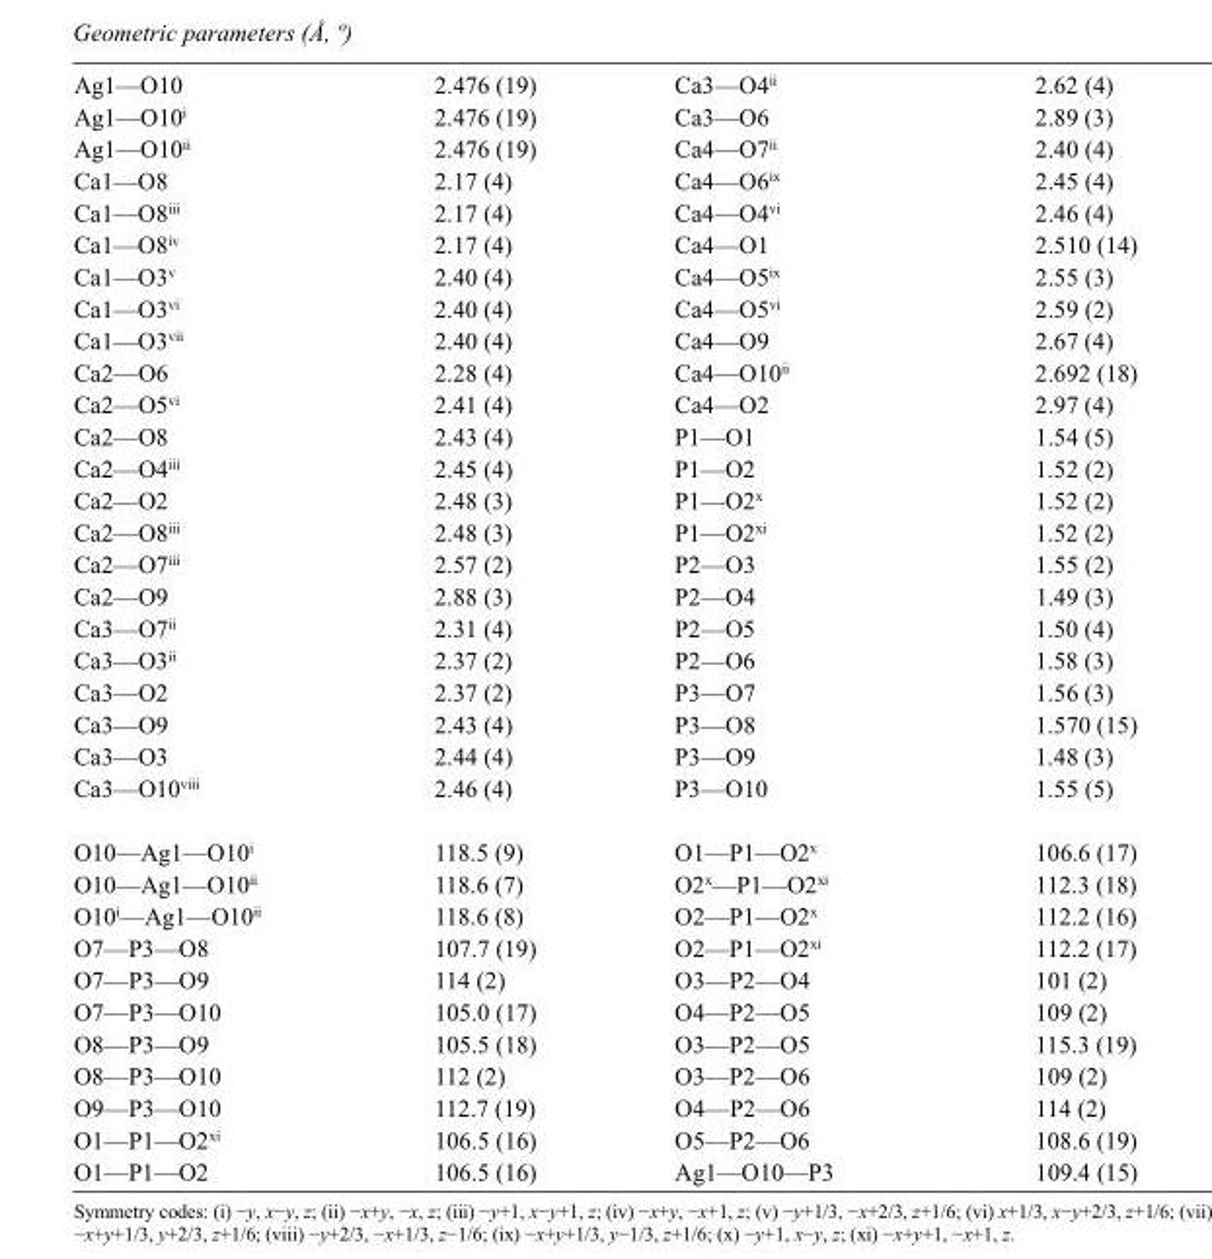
<table><tbody><tr><td>Ag1—O10</td><td>2.476 (19)</td><td>Ca3—O4<sup>ii</sup></td><td>2.62 (4)</td></tr><tr><td>Ag1—O10<sup>i</sup></td><td>2.476 (19)</td><td>Ca3—O6</td><td>2.89 (3)</td></tr><tr><td>Ag1—O10<sup>ii</sup></td><td>2.476 (19)</td><td>Ca4—O7<sup>ii</sup></td><td>2.40 (4)</td></tr><tr><td>Ca1—O8</td><td>2.17 (4)</td><td>Ca4—O6<sup>ix</sup></td><td>2.45 (4)</td></tr><tr><td>Ca1—O8<sup>iii</sup></td><td>2.17 (4)</td><td>Ca4—O4<sup>vi</sup></td><td>2.46 (4)</td></tr><tr><td>Ca1—O8<sup>iv</sup></td><td>2.17 (4)</td><td>Ca4—O1</td><td>2.510 (14)</td></tr><tr><td>Ca1—O3<sup>v</sup></td><td>2.40 (4)</td><td>Ca4—O5<sup>ix</sup></td><td>2.55 (3)</td></tr><tr><td>Ca1—O3<sup>vi</sup></td><td>2.40 (4)</td><td>Ca4—O5<sup>vi</sup></td><td>2.59 (2)</td></tr><tr><td>Ca1—O3<sup>vii</sup></td><td>2.40 (4)</td><td>Ca4—O9</td><td>2.67 (4)</td></tr><tr><td>Ca2—O6</td><td>2.28 (4)</td><td>Ca4—O10<sup>ii</sup></td><td>2.692 (18)</td></tr><tr><td>Ca2—O5<sup>vi</sup></td><td>2.41 (4)</td><td>Ca4—O2</td><td>2.97 (4)</td></tr><tr><td>Ca2—O8</td><td>2.43 (4)</td><td>P1—O1</td><td>1.54 (5)</td></tr><tr><td>Ca2—O4<sup>iii</sup></td><td>2.45 (4)</td><td>P1—O2</td><td>1.52 (2)</td></tr><tr><td>Ca2—O2</td><td>2.48 (3)</td><td>P1—O2<sup>x</sup></td><td>1.52 (2)</td></tr><tr><td>Ca2—O8<sup>iii</sup></td><td>2.48 (3)</td><td>P1—O2<sup>xi</sup></td><td>1.52 (2)</td></tr><tr><td>Ca2—O7<sup>iii</sup></td><td>2.57 (2)</td><td>P2—O3</td><td>1.55 (2)</td></tr><tr><td>Ca2—O9</td><td>2.88 (3)</td><td>P2—O4</td><td>1.49 (3)</td></tr><tr><td>Ca3—O7<sup>ii</sup></td><td>2.31 (4)</td><td>P2—O5</td><td>1.50 (4)</td></tr><tr><td>Ca3—O3<sup>ii</sup></td><td>2.37 (2)</td><td>P2—O6</td><td>1.58 (3)</td></tr><tr><td>Ca3—O2</td><td>2.37 (2)</td><td>P3—O7</td><td>1.56 (3)</td></tr><tr><td>Ca3—O9</td><td>2.43 (4)</td><td>P3—O8</td><td>1.570 (15)</td></tr><tr><td>Ca3—O3</td><td>2.44 (4)</td><td>P3—O9</td><td>1.48 (3)</td></tr><tr><td>Ca3—O10<sup>viii</sup></td><td>2.46 (4)</td><td>P3—O10</td><td>1.55 (5)</td></tr><tr><td>O10—Ag1—O10<sup>i</sup></td><td>118.5 (9)</td><td>O1—P1—O2<sup>x</sup></td><td>106.6 (17)</td></tr><tr><td>O10—Ag1—O10<sup>ii</sup></td><td>118.6 (7)</td><td>O2<sup>x</sup>—P1—O2<sup>xi</sup></td><td>112.3 (18)</td></tr><tr><td>O10<sup>i</sup>—Ag1—O10<sup>ii</sup></td><td>118.6 (8)</td><td>O2—P1—O2<sup>x</sup></td><td>112.2 (16)</td></tr><tr><td>O7—P3—O8</td><td>107.7 (19)</td><td>O2—P1—O2<sup>xi</sup></td><td>112.2 (17)</td></tr><tr><td>O7—P3—O9</td><td>114 (2)</td><td>O3—P2—O4</td><td>101 (2)</td></tr><tr><td>O7—P3—O10</td><td>105.0 (17)</td><td>O4—P2—O5</td><td>109 (2)</td></tr><tr><td>O8—P3—O9</td><td>105.5 (18)</td><td>O3—P2—O5</td><td>115.3 (19)</td></tr><tr><td>O8—P3—O10</td><td>112 (2)</td><td>O3—P2—O6</td><td>109 (2)</td></tr><tr><td>O9—P3—O10</td><td>112.7 (19)</td><td>O4—P2—O6</td><td>114 (2)</td></tr><tr><td>O1—P1—O2<sup>xi</sup></td><td>106.5 (16)</td><td>O5—P2—O6</td><td>108.6 (19)</td></tr><tr><td>O1—P1—O2</td><td>106.5 (16)</td><td>Ag1—O10—P3</td><td>109.4 (15)</td></tr></tbody></table>